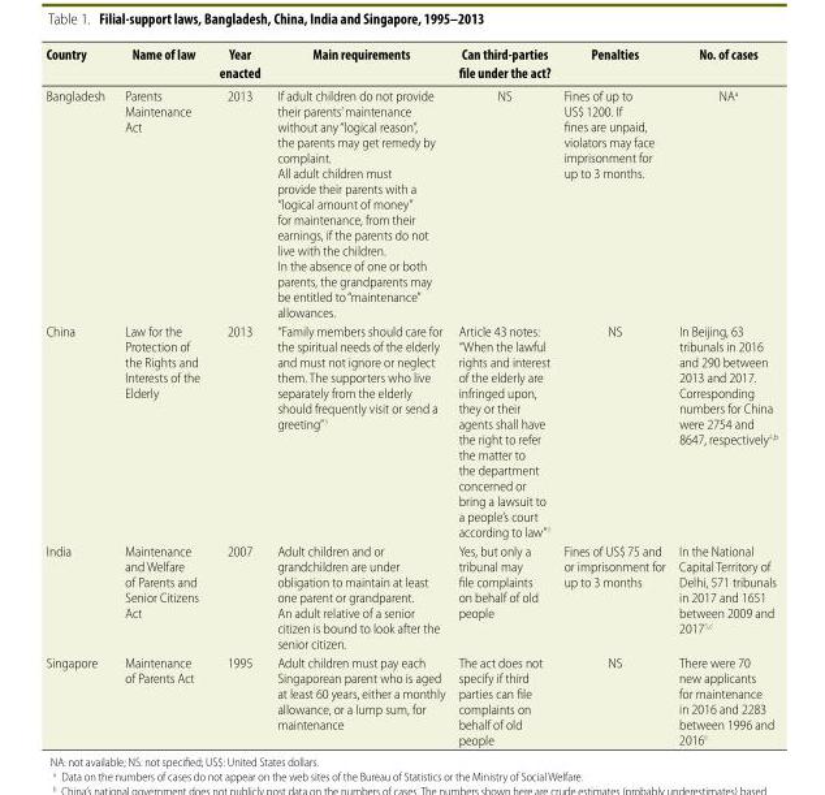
<table><thead><tr><td>Country</td><td>Name of law</td><td>Year enacted</td><td>Main requirements</td><td>Can third-parties file under the act?</td><td>Penalties</td><td>No. of cases</td></tr></thead><tbody><tr><td>Bangladesh</td><td>Parents Maintenance Act</td><td>2013</td><td>If adult children do not provide their parents’ maintenance without any “logical reason”, the parents may get remedy by complaint. All adult children must provide their parents with a “logical amount of money” for maintenance, from their earnings, if the parents do not live with the children. In the absence of one or both parents, the grandparents may be entitled to “maintenance” allowances.</td><td>NS</td><td>Fines of up to US$ 1200. If fines are unpaid, violators may face imprisonment for up to 3 months.</td><td>NA<sup>a</sup></td></tr><tr><td>China</td><td>Law for the Protection of the Rights and Interests of the Elderly</td><td>2013</td><td>“Family members should care for the spiritual needs of the elderly and must not ignore or neglect them. The supporters who live separately from the elderly should frequently visit or send a greeting”<sup>3</sup></td><td>Article 43 notes: “When the lawful rights and interest of the elderly are infringed upon, they or their agents shall have the right to refer the matter to the department concerned or bring a lawsuit to a people’s court according to law”<sup>3</sup></td><td>NS</td><td>In Beijing, 63 tribunals in 2016 and 290 between 2013 and 2017. Corresponding numbers for China were 2754 and 8647, respectively<sup>4,b</sup></td></tr><tr><td>India</td><td>Maintenance and Welfare of Parents and Senior Citizens Act</td><td>2007</td><td>Adult children and or grandchildren are under obligation to maintain at least one parent or grandparent. An adult relative of a senior citizen is bound to look after the senior citizen.</td><td>Yes, but only a tribunal may file complaints on behalf of old people</td><td>Fines of US$ 75 and or imprisonment for up to 3 months</td><td>In the National Capital Territory of Delhi, 571 tribunals in 2017 and 1651 between 2009 and 2017<sup>5,c</sup></td></tr><tr><td>Singapore</td><td>Maintenance of Parents Act</td><td>1995</td><td>Adult children must pay each Singaporean parent who is aged at least 60 years, either a monthly allowance, or a lump sum, for maintenance</td><td>The act does not specify if third parties can file complaints on behalf of old people</td><td>NS</td><td>There were 70 new applicants for maintenance in 2016 and 2283 between 1996 and 2016<sup>6</sup></td></tr></tbody></table>